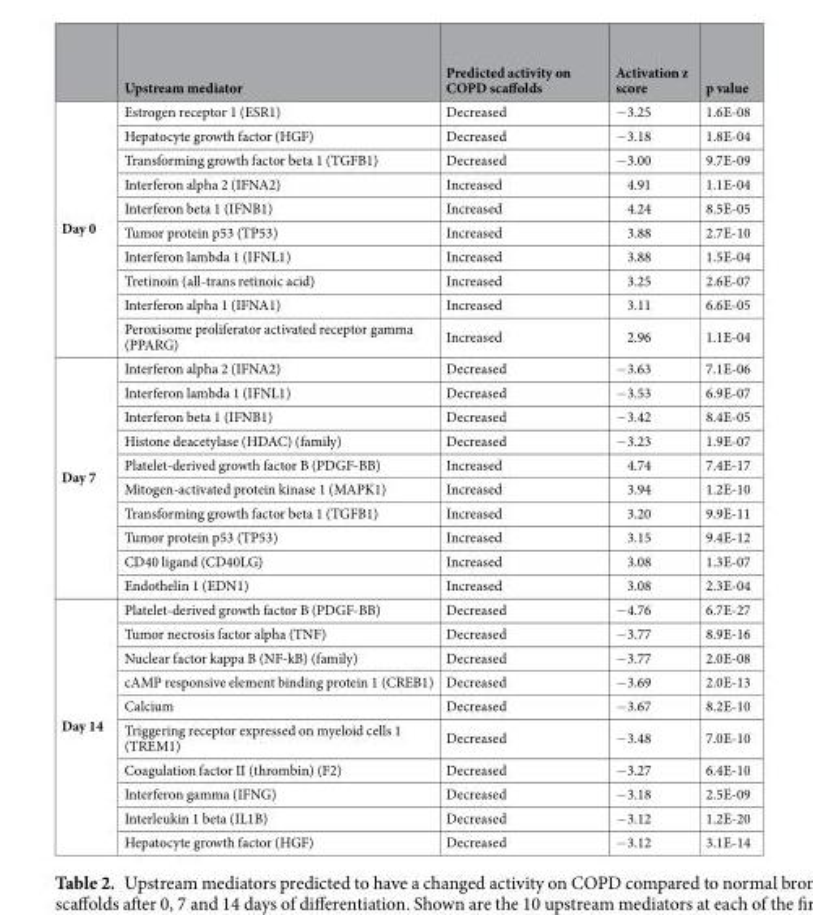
<table><thead><tr><td></td><td>Upstream mediator</td><td>Predicted activity on COPD scaffolds</td><td>Activation z score</td><td>p value</td></tr></thead><tbody><tr><td rowspan="10">Day 0</td><td>Estrogen receptor 1 (ESR1)</td><td>Decreased</td><td>−3.25</td><td>1.6E-08</td></tr><tr><td>Hepatocyte growth factor (HGF)</td><td>Decreased</td><td>−3.18</td><td>1.8E-04</td></tr><tr><td>Transforming growth factor beta 1 (TGFB1)</td><td>Decreased</td><td>−3.00</td><td>9.7E-09</td></tr><tr><td>Interferon alpha 2 (IFNA2)</td><td>Increased</td><td>4.91</td><td>1.1E-04</td></tr><tr><td>Interferon beta 1 (IFNB1)</td><td>Increased</td><td>4.24</td><td>8.5E-05</td></tr><tr><td>Tumor protein p53 (TP53)</td><td>Increased</td><td>3.88</td><td>2.7E-10</td></tr><tr><td>Interferon lambda 1 (IFNL1)</td><td>Increased</td><td>3.88</td><td>1.5E-04</td></tr><tr><td>Tretinoin (all-trans retinoic acid)</td><td>Increased</td><td>3.25</td><td>2.6E-07</td></tr><tr><td>Interferon alpha 1 (IFNA1)</td><td>Increased</td><td>3.11</td><td>6.6E-05</td></tr><tr><td>Peroxisome proliferator activated receptor gamma (PPARG)</td><td>Increased</td><td>2.96</td><td>1.1E-04</td></tr><tr><td rowspan="10">Day 7</td><td>Interferon alpha 2 (IFNA2)</td><td>Decreased</td><td>−3.63</td><td>7.1E-06</td></tr><tr><td>Interferon lambda 1 (IFNL1)</td><td>Decreased</td><td>−3.53</td><td>6.9E-07</td></tr><tr><td>Interferon beta 1 (IFNB1)</td><td>Decreased</td><td>−3.42</td><td>8.4E-05</td></tr><tr><td>Histone deacetylase (HDAC) (family)</td><td>Decreased</td><td>−3.23</td><td>1.9E-07</td></tr><tr><td>Platelet-derived growth factor B (PDGF-BB)</td><td>Increased</td><td>4.74</td><td>7.4E-17</td></tr><tr><td>Mitogen-activated protein kinase 1 (MAPK1)</td><td>Increased</td><td>3.94</td><td>1.2E-10</td></tr><tr><td>Transforming growth factor beta 1 (TGFB1)</td><td>Increased</td><td>3.20</td><td>9.9E-11</td></tr><tr><td>Tumor protein p53 (TP53)</td><td>Increased</td><td>3.15</td><td>9.4E-12</td></tr><tr><td>CD40 ligand (CD40LG)</td><td>Increased</td><td>3.08</td><td>1.3E-07</td></tr><tr><td>Endothelin 1 (EDN1)</td><td>Increased</td><td>3.08</td><td>2.3E-04</td></tr><tr><td rowspan="10">Day 14</td><td>Platelet-derived growth factor B (PDGF-BB)</td><td>Decreased</td><td>−4.76</td><td>6.7E-27</td></tr><tr><td>Tumor necrosis factor alpha (TNF)</td><td>Decreased</td><td>−3.77</td><td>8.9E-16</td></tr><tr><td>Nuclear factor kappa B (NF-kB) (family)</td><td>Decreased</td><td>−3.77</td><td>2.0E-08</td></tr><tr><td>cAMP responsive element binding protein 1 (CREB1)</td><td>Decreased</td><td>−3.69</td><td>2.0E-13</td></tr><tr><td>Calcium</td><td>Decreased</td><td>−3.67</td><td>8.2E-10</td></tr><tr><td>Triggering receptor expressed on myeloid cells 1 (TREM1)</td><td>Decreased</td><td>−3.48</td><td>7.0E-10</td></tr><tr><td>Coagulation factor II (thrombin) (F2)</td><td>Decreased</td><td>−3.27</td><td>6.4E-10</td></tr><tr><td>Interferon gamma (IFNG)</td><td>Decreased</td><td>−3.18</td><td>2.5E-09</td></tr><tr><td>Interleukin 1 beta (IL1B)</td><td>Decreased</td><td>−3.12</td><td>1.2E-20</td></tr><tr><td>Hepatocyte growth factor (HGF)</td><td>Decreased</td><td>−3.12</td><td>3.1E-14</td></tr></tbody></table>